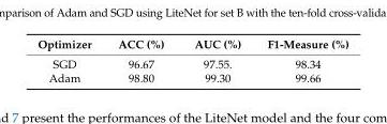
<table><thead><tr><td>Optimizer</td><td>ACC (%)</td><td>AUC (%)</td><td>F1-Measure (%)</td></tr></thead><tbody><tr><td>SGD</td><td>96.67</td><td>97.55.</td><td>98.34</td></tr><tr><td>Adam</td><td>98.80</td><td>99.30</td><td>99.66</td></tr></tbody></table>